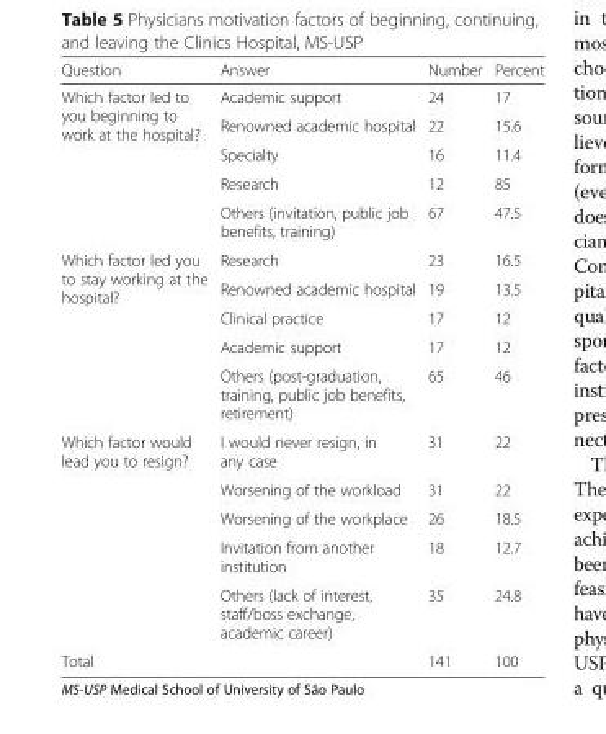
<table><thead><tr><td>Question</td><td>Answer</td><td>Number</td><td>Percent</td></tr></thead><tbody><tr><td rowspan="5">Which factor led to you beginning to work at the hospital?</td><td>Academic support</td><td>24</td><td>17</td></tr><tr><td>Renowned academic hospital</td><td>22</td><td>15.6</td></tr><tr><td>Specialty</td><td>16</td><td>11.4</td></tr><tr><td>Research</td><td>12</td><td>85</td></tr><tr><td>Others (invitation, public job benefits, training)</td><td>67</td><td>47.5</td></tr><tr><td rowspan="5">Which factor led you to stay working at the hospital?</td><td>Research</td><td>23</td><td>16.5</td></tr><tr><td>Renowned academic hospital</td><td>19</td><td>13.5</td></tr><tr><td>Clinical practice</td><td>17</td><td>12</td></tr><tr><td>Academic support</td><td>17</td><td>12</td></tr><tr><td>Others (post-graduation, training, public job benefits, retirement)</td><td>65</td><td>46</td></tr><tr><td rowspan="5">Which factor would lead you to resign?</td><td>I would never resign, in any case</td><td>31</td><td>22</td></tr><tr><td>Worsening of the workload</td><td>31</td><td>22</td></tr><tr><td>Worsening of the workplace</td><td>26</td><td>18.5</td></tr><tr><td>Invitation from another institution</td><td>18</td><td>12.7</td></tr><tr><td>Others (lack of interest, staff/boss exchange, academic career)</td><td>35</td><td>24.8</td></tr><tr><td>Total</td><td></td><td>141</td><td>100</td></tr></tbody></table>